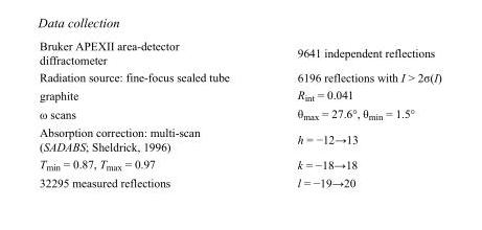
<table><tbody><tr><td>Bruker APEXII area-detector diffractometer</td><td>9641 independent reflections</td></tr><tr><td>Radiation source: fine-focus sealed tube</td><td>6196 reflections with I &gt; 2σ(I)</td></tr><tr><td>graphite</td><td>R<sub>int</sub> = 0.041</td></tr><tr><td>ω scans</td><td>θ<sub>max</sub> = 27.6°, θ<sub>min</sub> = 1.5°</td></tr><tr><td>Absorption correction: multi-scan (SADABS; Sheldrick, 1996)</td><td>h = −12→13</td></tr><tr><td>T<sub>min</sub> = 0.87, T<sub>max</sub> = 0.97</td><td>k = −18→18</td></tr><tr><td>32295 measured reflections</td><td>l = −19→20</td></tr></tbody></table>